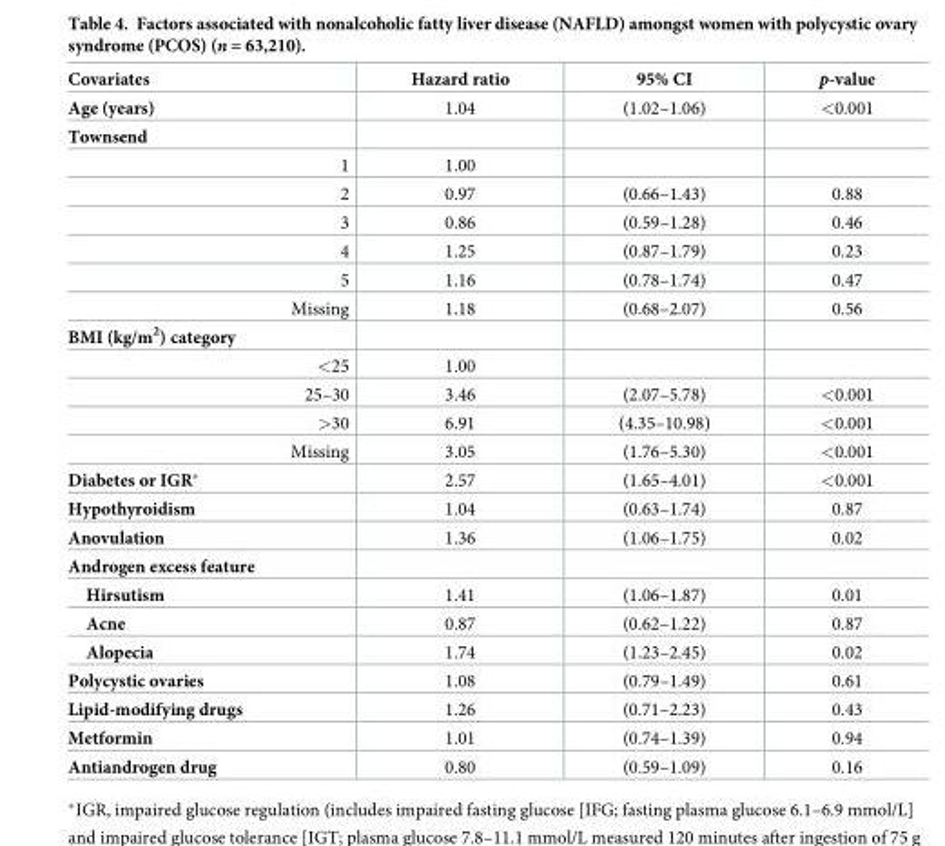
<table><thead><tr><td>Covariates</td><td>Hazard ratio</td><td>95% CI</td><td>p-value</td></tr></thead><tbody><tr><td>Age (years)</td><td>1.04</td><td>(1.02–1.06)</td><td>&lt;0.001</td></tr><tr><td colspan="4">Townsend</td></tr><tr><td>1</td><td>1.00</td><td></td><td></td></tr><tr><td>2</td><td>0.97</td><td>(0.66–1.43)</td><td>0.88</td></tr><tr><td>3</td><td>0.86</td><td>(0.59–1.28)</td><td>0.46</td></tr><tr><td>4</td><td>1.25</td><td>(0.87–1.79)</td><td>0.23</td></tr><tr><td>5</td><td>1.16</td><td>(0.78–1.74)</td><td>0.47</td></tr><tr><td>Missing</td><td>1.18</td><td>(0.68–2.07)</td><td>0.56</td></tr><tr><td colspan="4">BMI (kg/m<sup>2</sup>) category</td></tr><tr><td>&lt;25</td><td>1.00</td><td></td><td></td></tr><tr><td>25–30</td><td>3.46</td><td>(2.07–5.78)</td><td>&lt;0.001</td></tr><tr><td>&gt;30</td><td>6.91</td><td>(4.35–10.98)</td><td>&lt;0.001</td></tr><tr><td>Missing</td><td>3.05</td><td>(1.76–5.30)</td><td>&lt;0.001</td></tr><tr><td>Diabetes or IGR*</td><td>2.57</td><td>(1.65–4.01)</td><td>&lt;0.001</td></tr><tr><td>Hypothyroidism</td><td>1.04</td><td>(0.63–1.74)</td><td>0.87</td></tr><tr><td>Anovulation</td><td>1.36</td><td>(1.06–1.75)</td><td>0.02</td></tr><tr><td colspan="4">Androgen excess feature</td></tr><tr><td>Hirsutism</td><td>1.41</td><td>(1.06–1.87)</td><td>0.01</td></tr><tr><td>Acne</td><td>0.87</td><td>(0.62–1.22)</td><td>0.87</td></tr><tr><td>Alopecia</td><td>1.74</td><td>(1.23–2.45)</td><td>0.02</td></tr><tr><td>Polycystic ovaries</td><td>1.08</td><td>(0.79–1.49)</td><td>0.61</td></tr><tr><td>Lipid-modifying drugs</td><td>1.26</td><td>(0.71–2.23)</td><td>0.43</td></tr><tr><td>Metformin</td><td>1.01</td><td>(0.74–1.39)</td><td>0.94</td></tr><tr><td>Antiandrogen drug</td><td>0.80</td><td>(0.59–1.09)</td><td>0.16</td></tr></tbody></table>